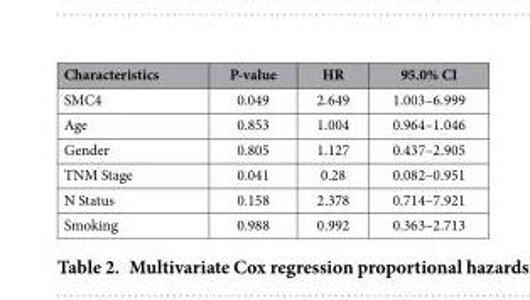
<table><thead><tr><td>Characteristics</td><td>P-value</td><td>HR</td><td>95.0% CI</td></tr></thead><tbody><tr><td>SMC4</td><td>0.049</td><td>2.649</td><td>1.003–6.999</td></tr><tr><td>Age</td><td>0.853</td><td>1.004</td><td>0.964–1.046</td></tr><tr><td>Gender</td><td>0.805</td><td>1.127</td><td>0.437–2.905</td></tr><tr><td>TNM Stage</td><td>0.041</td><td>0.28</td><td>0.082–0.951</td></tr><tr><td>N Status</td><td>0.158</td><td>2.378</td><td>0.714–7.921</td></tr><tr><td>Smoking</td><td>0.988</td><td>0.992</td><td>0.363–2.713</td></tr></tbody></table>